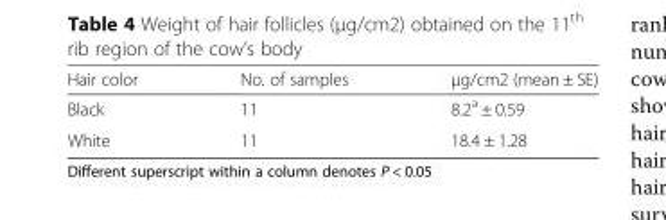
<table><thead><tr><td>Hair color</td><td>No. of samples</td><td>μg/cm2 (mean ± SE)</td></tr></thead><tbody><tr><td>Black</td><td>11</td><td>8.2<sup>a</sup> ± 0.59</td></tr><tr><td>White</td><td>11</td><td>18.4 ± 1.28</td></tr></tbody></table>